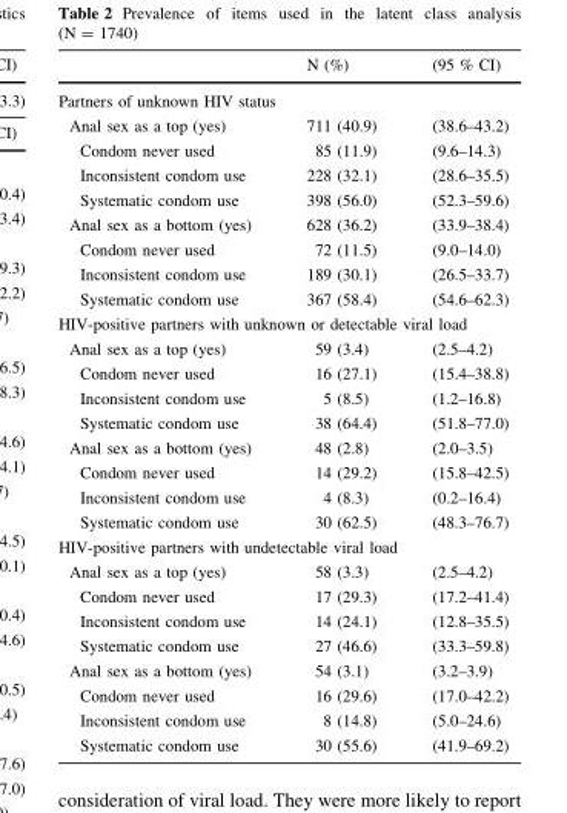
<table><thead><tr><td></td><td>N (%)</td><td>(95 % CI)</td></tr></thead><tbody><tr><td colspan="3">Partners of unknown HIV status</td></tr><tr><td>Anal sex as a top (yes)</td><td>711 (40.9)</td><td>(38.6–43.2)</td></tr><tr><td>Condom never used</td><td>85 (11.9)</td><td>(9.6–14.3)</td></tr><tr><td>Inconsistent condom use</td><td>228 (32.1)</td><td>(28.6–35.5)</td></tr><tr><td>Systematic condom use</td><td>398 (56.0)</td><td>(52.3–59.6)</td></tr><tr><td>Anal sex as a bottom (yes)</td><td>628 (36.2)</td><td>(33.9–38.4)</td></tr><tr><td>Condom never used</td><td>72 (11.5)</td><td>(9.0–14.0)</td></tr><tr><td>Inconsistent condom use</td><td>189 (30.1)</td><td>(26.5–33.7)</td></tr><tr><td>Systematic condom use</td><td>367 (58.4)</td><td>(54.6–62.3)</td></tr><tr><td colspan="3">HIV-positive partners with unknown or detectable viral load</td></tr><tr><td>Anal sex as a top (yes)</td><td>59 (3.4)</td><td>(2.5–4.2)</td></tr><tr><td>Condom never used</td><td>16 (27.1)</td><td>(15.4–38.8)</td></tr><tr><td>Inconsistent condom use</td><td>5 (8.5)</td><td>(1.2–16.8)</td></tr><tr><td>Systematic condom use</td><td>38 (64.4)</td><td>(51.8–77.0)</td></tr><tr><td>Anal sex as a bottom (yes)</td><td>48 (2.8)</td><td>(2.0–3.5)</td></tr><tr><td>Condom never used</td><td>14 (29.2)</td><td>(15.8–42.5)</td></tr><tr><td>Inconsistent condom use</td><td>4 (8.3)</td><td>(0.2–16.4)</td></tr><tr><td>Systematic condom use</td><td>30 (62.5)</td><td>(48.3–76.7)</td></tr><tr><td colspan="3">HIV-positive partners with undetectable viral load</td></tr><tr><td>Anal sex as a top (yes)</td><td>58 (3.3)</td><td>(2.5–4.2)</td></tr><tr><td>Condom never used</td><td>17 (29.3)</td><td>(17.2–41.4)</td></tr><tr><td>Inconsistent condom use</td><td>14 (24.1)</td><td>(12.8–35.5)</td></tr><tr><td>Systematic condom use</td><td>27 (46.6)</td><td>(33.3–59.8)</td></tr><tr><td>Anal sex as a bottom (yes)</td><td>54 (3.1)</td><td>(3.2–3.9)</td></tr><tr><td>Condom never used</td><td>16 (29.6)</td><td>(17.0–42.2)</td></tr><tr><td>Inconsistent condom use</td><td>8 (14.8)</td><td>(5.0–24.6)</td></tr><tr><td>Systematic condom use</td><td>30 (55.6)</td><td>(41.9–69.2)</td></tr></tbody></table>